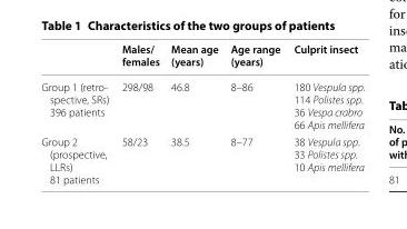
<table><thead><tr><td></td><td>Males/ females</td><td>Mean age (years)</td><td>Age range (years)</td><td>Culprit insect</td></tr></thead><tbody><tr><td>Group 1 (retro- spective, SRs) 396 patients</td><td>298/98</td><td>46.8</td><td>8–86</td><td>180 Vespula spp. 114 Polistes spp. 36 Vespa crabro 66 Apis mellifera</td></tr><tr><td>Group 2 (prospective, LLRs) 81 patients</td><td>58/23</td><td>38.5</td><td>8–77</td><td>38 Vespula spp. 33 Polistes spp. 10 Apis mellifera</td></tr></tbody></table>